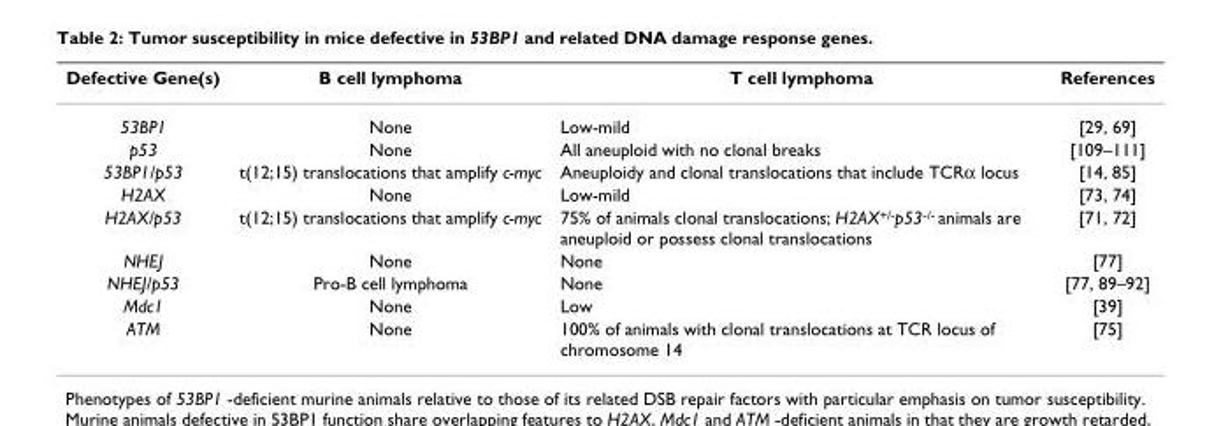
<table><thead><tr><td>Defective Gene(s)</td><td>B cell lymphoma</td><td>T cell lymphoma</td><td>References</td></tr></thead><tbody><tr><td>53BP1</td><td>None</td><td>Low-mild</td><td>[29, 69]</td></tr><tr><td>p53</td><td>None</td><td>All aneuploid with no clonal breaks</td><td>[109–111]</td></tr><tr><td>53BP1/p53</td><td>t(12;15) translocations that amplify c-myc</td><td>Aneuploidy and clonal translocations that include TCRα locus</td><td>[14, 85]</td></tr><tr><td>H2AX</td><td>None</td><td>Low-mild</td><td>[73, 74]</td></tr><tr><td>H2AX/p53</td><td>t(12;15) translocations that amplify c-myc</td><td>75% of animals clonal translocations; H2AX<sup>+/-</sup>p53<sup>-/-</sup> animals are aneuploid or possess clonal translocations</td><td>[71, 72]</td></tr><tr><td>NHEJ</td><td>None</td><td>None</td><td>[77]</td></tr><tr><td>NHEJ/p53</td><td>Pro-B cell lymphoma</td><td>None</td><td>[77, 89–92]</td></tr><tr><td>Mdc1</td><td>None</td><td>Low</td><td>[39]</td></tr><tr><td>ATM</td><td>None</td><td>100% of animals with clonal translocations at TCR locus of chromosome 14</td><td>[75]</td></tr></tbody></table>